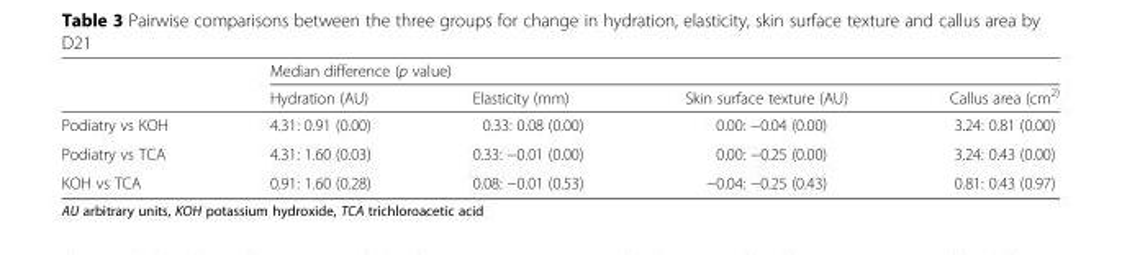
<table><thead><tr><td rowspan="2"></td><td colspan="4">Median difference (p value)</td></tr><tr><td>Hydration (AU)</td><td>Elasticity (mm)</td><td>Skin surface texture (AU)</td><td>Callus area (cm<sup>2)</sup></td></tr></thead><tbody><tr><td>Podiatry vs KOH</td><td>4.31: 0.91 (0.00)</td><td>0.33: 0.08 (0.00)</td><td>0.00: −0.04 (0.00)</td><td>3.24: 0.81 (0.00)</td></tr><tr><td>Podiatry vs TCA</td><td>4.31: 1.60 (0.03)</td><td>0.33: −0.01 (0.00)</td><td>0.00: −0.25 (0.00)</td><td>3.24: 0.43 (0.00)</td></tr><tr><td>KOH vs TCA</td><td>0.91: 1.60 (0.28)</td><td>0.08: −0.01 (0.53)</td><td>−0.04: −0.25 (0.43)</td><td>0.81: 0.43 (0.97)</td></tr></tbody></table>